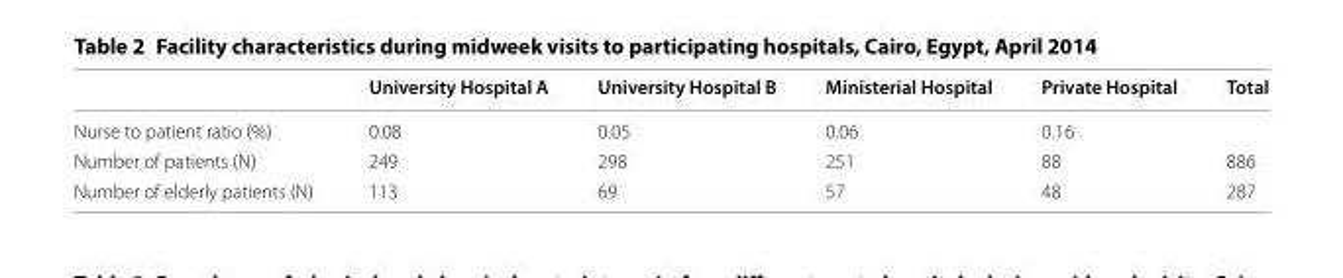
<table><thead><tr><td></td><td>University Hospital A</td><td>University Hospital B</td><td>Ministerial Hospital</td><td>Private Hospital</td><td>Total</td></tr></thead><tbody><tr><td>Nurse to patient ratio (%)</td><td>0.08</td><td>0.05</td><td>0.06</td><td>0.16</td><td></td></tr><tr><td>Number of patients (N)</td><td>249</td><td>298</td><td>251</td><td>88</td><td>886</td></tr><tr><td>Number of elderly patients (N)</td><td>113</td><td>69</td><td>57</td><td>48</td><td>287</td></tr></tbody></table>